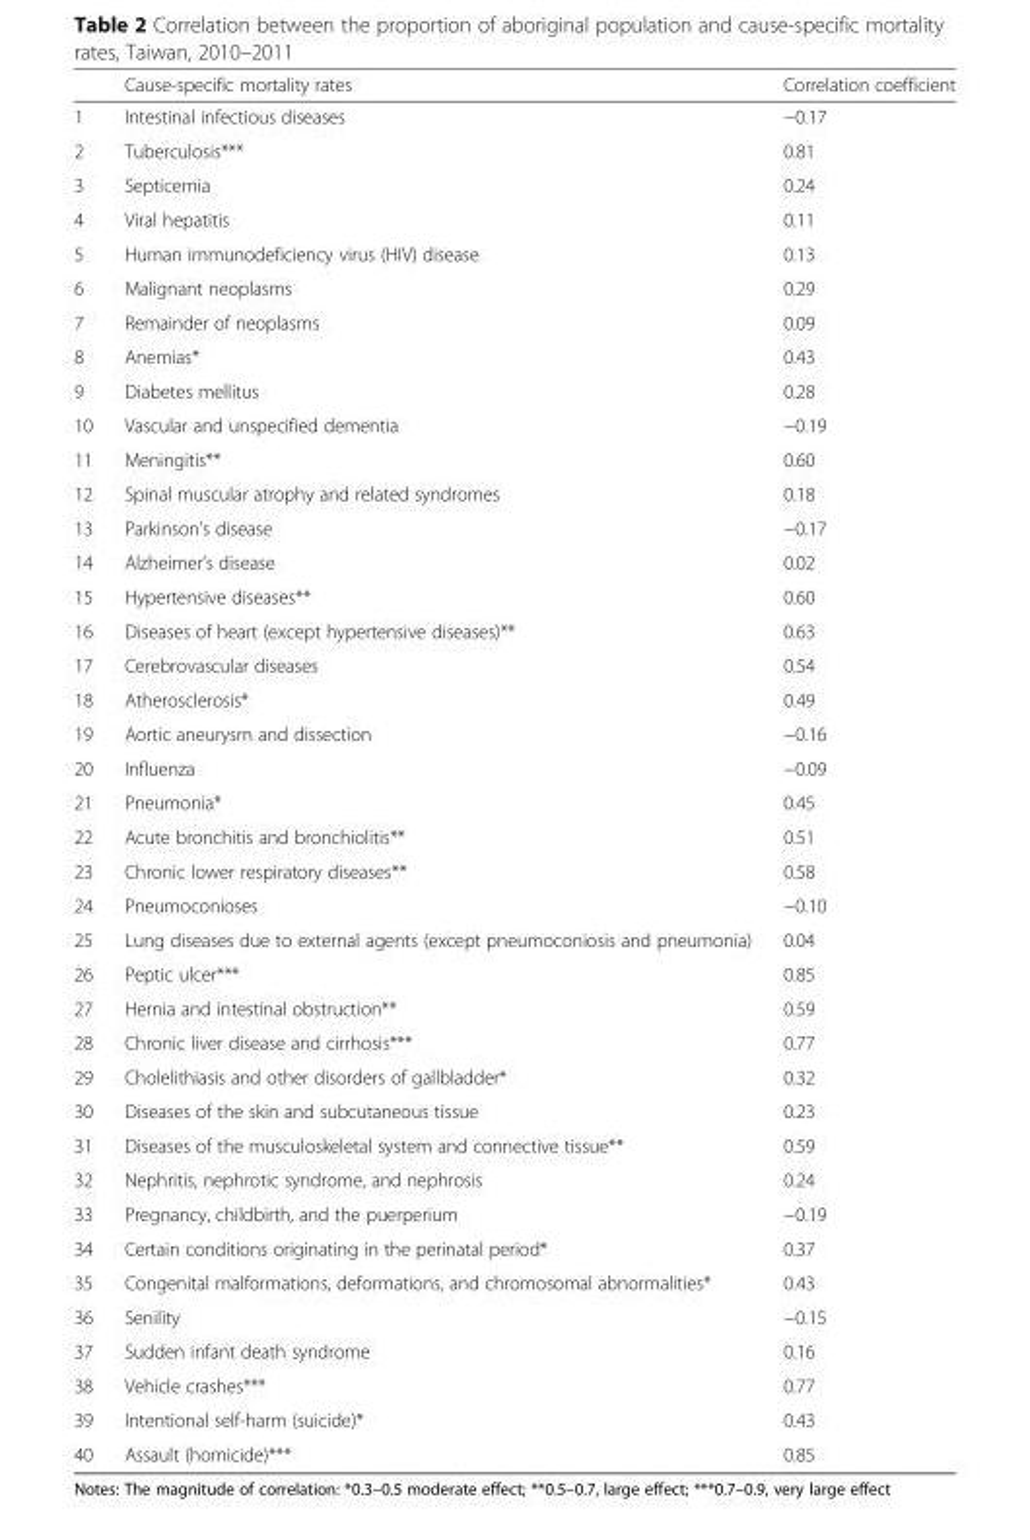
<table><thead><tr><td></td><td>Cause-specific mortality rates</td><td>Correlation coefficient</td></tr></thead><tbody><tr><td>1</td><td>Intestinal infectious diseases</td><td>−0.17</td></tr><tr><td>2</td><td>Tuberculosis***</td><td>0.81</td></tr><tr><td>3</td><td>Septicemia</td><td>0.24</td></tr><tr><td>4</td><td>Viral hepatitis</td><td>0.11</td></tr><tr><td>5</td><td>Human immunodeficiency virus (HIV) disease</td><td>0.13</td></tr><tr><td>6</td><td>Malignant neoplasms</td><td>0.29</td></tr><tr><td>7</td><td>Remainder of neoplasms</td><td>0.09</td></tr><tr><td>8</td><td>Anemias*</td><td>0.43</td></tr><tr><td>9</td><td>Diabetes mellitus</td><td>0.28</td></tr><tr><td>10</td><td>Vascular and unspecified dementia</td><td>−0.19</td></tr><tr><td>11</td><td>Meningitis**</td><td>0.60</td></tr><tr><td>12</td><td>Spinal muscular atrophy and related syndromes</td><td>0.18</td></tr><tr><td>13</td><td>Parkinson’s disease</td><td>−0.17</td></tr><tr><td>14</td><td>Alzheimer’s disease</td><td>0.02</td></tr><tr><td>15</td><td>Hypertensive diseases**</td><td>0.60</td></tr><tr><td>16</td><td>Diseases of heart (except hypertensive diseases)**</td><td>0.63</td></tr><tr><td>17</td><td>Cerebrovascular diseases</td><td>0.54</td></tr><tr><td>18</td><td>Atherosclerosis*</td><td>0.49</td></tr><tr><td>19</td><td>Aortic aneurysm and dissection</td><td>−0.16</td></tr><tr><td>20</td><td>Influenza</td><td>−0.09</td></tr><tr><td>21</td><td>Pneumonia*</td><td>0.45</td></tr><tr><td>22</td><td>Acute bronchitis and bronchiolitis**</td><td>0.51</td></tr><tr><td>23</td><td>Chronic lower respiratory diseases**</td><td>0.58</td></tr><tr><td>24</td><td>Pneumoconioses</td><td>−0.10</td></tr><tr><td>25</td><td>Lung diseases due to external agents (except pneumoconiosis and pneumonia)</td><td>0.04</td></tr><tr><td>26</td><td>Peptic ulcer***</td><td>0.85</td></tr><tr><td>27</td><td>Hernia and intestinal obstruction**</td><td>0.59</td></tr><tr><td>28</td><td>Chronic liver disease and cirrhosis***</td><td>0.77</td></tr><tr><td>29</td><td>Cholelithiasis and other disorders of gallbladder*</td><td>0.32</td></tr><tr><td>30</td><td>Diseases of the skin and subcutaneous tissue</td><td>0.23</td></tr><tr><td>31</td><td>Diseases of the musculoskeletal system and connective tissue**</td><td>0.59</td></tr><tr><td>32</td><td>Nephritis, nephrotic syndrome, and nephrosis</td><td>0.24</td></tr><tr><td>33</td><td>Pregnancy, childbirth, and the puerperium</td><td>−0.19</td></tr><tr><td>34</td><td>Certain conditions originating in the perinatal period*</td><td>0.37</td></tr><tr><td>35</td><td>Congenital malformations, deformations, and chromosomal abnormalities*</td><td>0.43</td></tr><tr><td>36</td><td>Senility</td><td>−0.15</td></tr><tr><td>37</td><td>Sudden infant death syndrome</td><td>0.16</td></tr><tr><td>38</td><td>Vehicle crashes***</td><td>0.77</td></tr><tr><td>39</td><td>Intentional self-harm (suicide)*</td><td>0.43</td></tr><tr><td>40</td><td>Assault (homicide)***</td><td>0.85</td></tr></tbody></table>